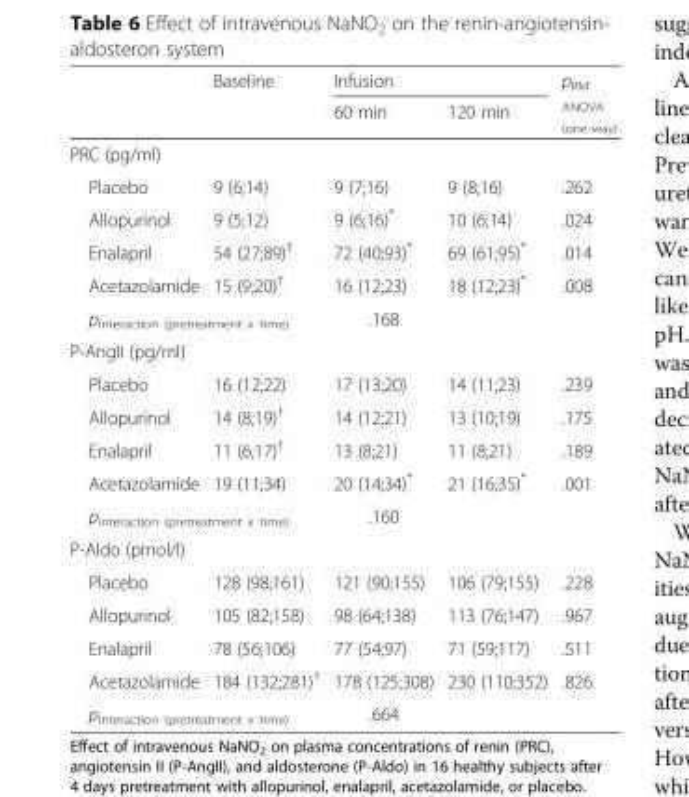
<table><thead><tr><td rowspan="2"></td><td rowspan="2">Baseline</td><td colspan="2">Infusion</td><td rowspan="2">p<sub>RM ANOVA (one-way)</sub></td></tr><tr><td>60 min</td><td>120 min</td></tr></thead><tbody><tr><td colspan="5">PRC (pg/ml)</td></tr><tr><td>Placebo</td><td>9 (6;14)</td><td>9 (7;16)</td><td>9 (8;16)</td><td>.262</td></tr><tr><td>Allopurinol</td><td>9 (5;12)</td><td>9 (6;16)*</td><td>10 (6;14)</td><td>.024</td></tr><tr><td>Enalapril</td><td>54 (27;89)<sup>†</sup></td><td>72 (40;93)*</td><td>69 (61;95)*</td><td>.014</td></tr><tr><td>Acetazolamide</td><td>15 (9;20)<sup>†</sup></td><td>16 (12;23)</td><td>18 (12;23)*</td><td>.008</td></tr><tr><td colspan="2">p<sub>interaction (pretreatment x time)</sub></td><td>.168</td><td></td><td></td></tr><tr><td colspan="5">P-AngII (pg/ml)</td></tr><tr><td>Placebo</td><td>16 (12;22)</td><td>17 (13;20)</td><td>14 (11;23)</td><td>.239</td></tr><tr><td>Allopurinol</td><td>14 (8;19)<sup>†</sup></td><td>14 (12;21)</td><td>13 (10;19)</td><td>.175</td></tr><tr><td>Enalapril</td><td>11 (6;17)<sup>†</sup></td><td>13 (8;21)</td><td>11 (8;21)</td><td>.189</td></tr><tr><td>Acetazolamide</td><td>19 (11;34)</td><td>20 (14;34)*</td><td>21 (16;35)*</td><td>.001</td></tr><tr><td colspan="2">p<sub>interaction (pretreatment x time)</sub></td><td>.160</td><td></td><td></td></tr><tr><td colspan="5">P-Aldo (pmol/l)</td></tr><tr><td>Placebo</td><td>128 (98;161)</td><td>121 (90;155)</td><td>106 (79;155)</td><td>.228</td></tr><tr><td>Allopurinol</td><td>105 (82;158)</td><td>98 (64;138)</td><td>113 (76;147)</td><td>.967</td></tr><tr><td>Enalapril</td><td>78 (56;106)</td><td>77 (54;97)</td><td>71 (59;117)</td><td>.511</td></tr><tr><td>Acetazolamide</td><td>184 (132;281)<sup>†</sup></td><td>178 (125;308)</td><td>230 (110;352)</td><td>.826</td></tr><tr><td colspan="2">p<sub>interaction (pretreatment x time)</sub></td><td>.664</td><td></td><td></td></tr></tbody></table>